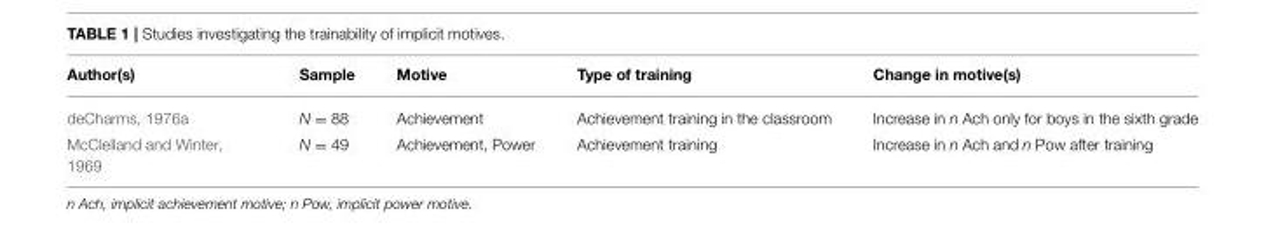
<table><thead><tr><td>Author(s)</td><td>Sample</td><td>Motive</td><td>Type of training</td><td>Change in motive(s)</td></tr></thead><tbody><tr><td>deCharms, 1976a</td><td>N = 88</td><td>Achievement</td><td>Achievement training in the classroom</td><td>Increase in n Ach only for boys in the sixth grade</td></tr><tr><td>McClelland and Winter, 1969</td><td>N = 49</td><td>Achievement, Power</td><td>Achievement training</td><td>Increase in n Ach and n Pow after training</td></tr></tbody></table>